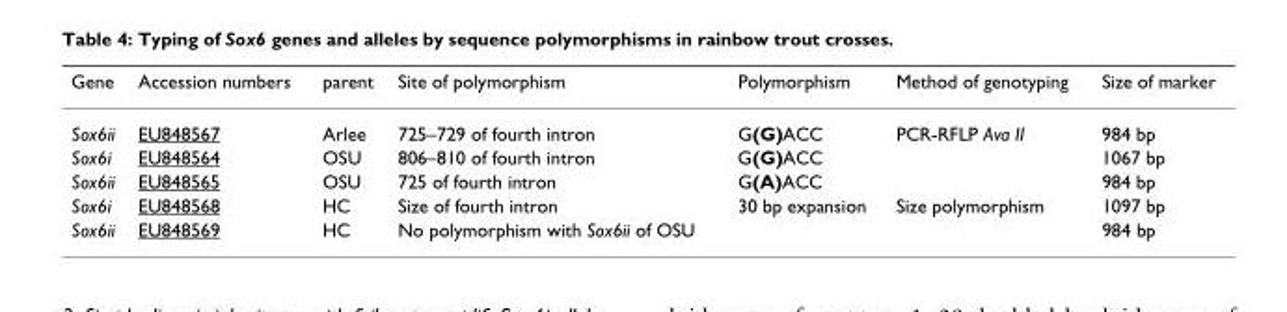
<table><thead><tr><td>Gene</td><td>Accession numbers</td><td>parent</td><td>Site of polymorphism</td><td>Polymorphism</td><td>Method of genotyping</td><td>Size of marker</td></tr></thead><tbody><tr><td>Sox6ii</td><td>EU848567</td><td>Arlee</td><td>725–729 of fourth intron</td><td>G(G)ACC</td><td>PCR-RFLP Ava II</td><td>984 bp</td></tr><tr><td>Sox6i</td><td>EU848564</td><td>OSU</td><td>806–810 of fourth intron</td><td>G(G)ACC</td><td></td><td>1067 bp</td></tr><tr><td>Sox6ii</td><td>EU848565</td><td>OSU</td><td>725 of fourth intron</td><td>G(A)ACC</td><td></td><td>984 bp</td></tr><tr><td>Sox6i</td><td>EU848568</td><td>HC</td><td>Size of fourth intron</td><td>30 bp expansion</td><td>Size polymorphism</td><td>1097 bp</td></tr><tr><td>Sox6ii</td><td>EU848569</td><td>HC</td><td>No polymorphism with Sox6ii of OSU</td><td></td><td></td><td>984 bp</td></tr></tbody></table>